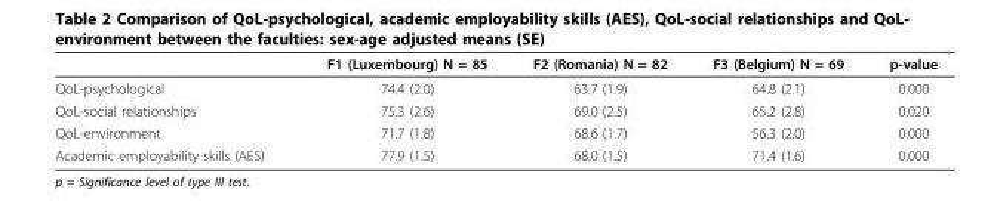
<table><thead><tr><td></td><td>F1 (Luxembourg) N = 85</td><td>F2 (Romania) N = 82</td><td>F3 (Belgium) N = 69</td><td>p-value</td></tr></thead><tbody><tr><td>QoL-psychological</td><td>74.4 (2.0)</td><td>63.7 (1.9)</td><td>64.8 (2.1)</td><td>0.000</td></tr><tr><td>QoL-social relationships</td><td>75.3 (2.6)</td><td>69.0 (2.5)</td><td>65.2 (2.8)</td><td>0.020</td></tr><tr><td>QoL-environment</td><td>71.7 (1.8)</td><td>68.6 (1.7)</td><td>56.3 (2.0)</td><td>0.000</td></tr><tr><td>Academic employability skills (AES)</td><td>77.9 (1.5)</td><td>68.0 (1.5)</td><td>71.4 (1.6)</td><td>0.000</td></tr></tbody></table>